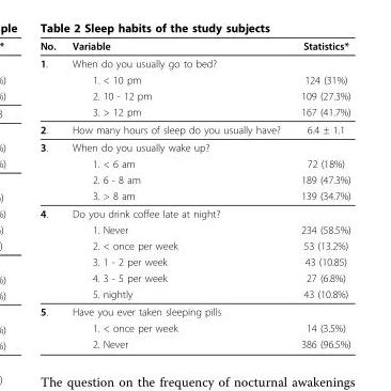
<table><thead><tr><td>No.</td><td>Variable</td><td>Statistics*</td></tr></thead><tbody><tr><td rowspan="4">1.</td><td>When do you usually go to bed?</td><td></td></tr><tr><td>1. &lt; 10 pm</td><td>124 (31%)</td></tr><tr><td>2. 10 - 12 pm</td><td>109 (27.3%)</td></tr><tr><td>3. &gt; 12 pm</td><td>167 (41.7%)</td></tr><tr><td>2.</td><td>How many hours of sleep do you usually have?</td><td>6.4 ± 1.1</td></tr><tr><td rowspan="4">3.</td><td>When do you usually wake up?</td><td></td></tr><tr><td>1. &lt; 6 am</td><td>72 (18%)</td></tr><tr><td>2. 6 - 8 am</td><td>189 (47.3%)</td></tr><tr><td>3. &gt; 8 am</td><td>139 (34.7%)</td></tr><tr><td rowspan="6">4.</td><td>Do you drink coffee late at night?</td><td></td></tr><tr><td>1. Never</td><td>234 (58.5%)</td></tr><tr><td>2. &lt; once per week</td><td>53 (13.2%)</td></tr><tr><td>3. 1 - 2 per week</td><td>43 (10.85)</td></tr><tr><td>4. 3 - 5 per week</td><td>27 (6.8%)</td></tr><tr><td>5. nightly</td><td>43 (10.8%)</td></tr><tr><td rowspan="3">5.</td><td>Have you ever taken sleeping pills</td><td></td></tr><tr><td>1. &lt; once per week</td><td>14 (3.5%)</td></tr><tr><td>2. Never</td><td>386 (96.5%)</td></tr></tbody></table>